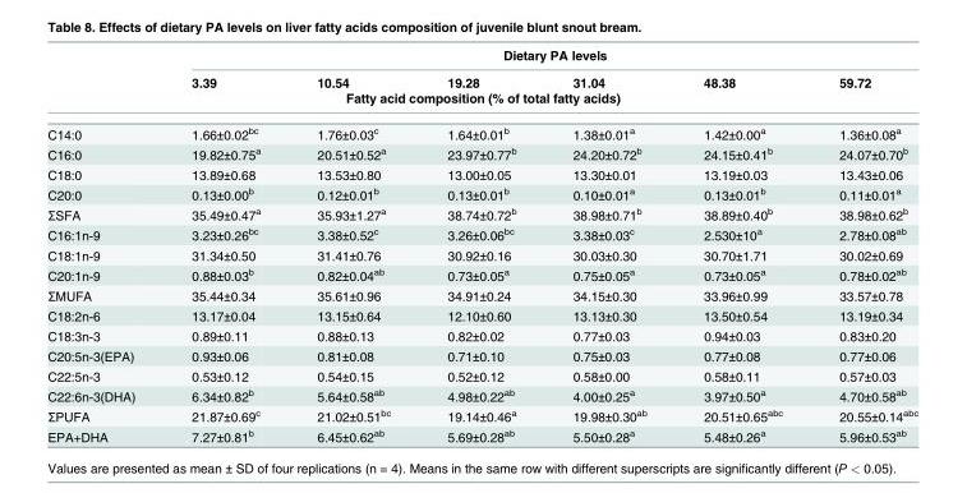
<table><thead><tr><td rowspan="2"></td><td colspan="6">Dietary PA levels</td></tr><tr><td>3.39</td><td>10.54</td><td>19.28</td><td>31.04</td><td>48.38</td><td>59.72</td></tr><tr><td colspan="7">Fatty acid composition (% of total fatty acids)</td></tr></thead><tbody><tr><td>C14:0</td><td>1.66±0.02<sup>bc</sup></td><td>1.76±0.03<sup>c</sup></td><td>1.64±0.01<sup>b</sup></td><td>1.38±0.01<sup>a</sup></td><td>1.42±0.00<sup>a</sup></td><td>1.36±0.08<sup>a</sup></td></tr><tr><td>C16:0</td><td>19.82±0.75<sup>a</sup></td><td>20.51±0.52<sup>a</sup></td><td>23.97±0.77<sup>b</sup></td><td>24.20±0.72<sup>b</sup></td><td>24.15±0.41<sup>b</sup></td><td>24.07±0.70<sup>b</sup></td></tr><tr><td>C18:0</td><td>13.89±0.68</td><td>13.53±0.80</td><td>13.00±0.05</td><td>13.30±0.01</td><td>13.19±0.03</td><td>13.43±0.06</td></tr><tr><td>C20:0</td><td>0.13±0.00<sup>b</sup></td><td>0.12±0.01<sup>b</sup></td><td>0.13±0.01<sup>b</sup></td><td>0.10±0.01<sup>a</sup></td><td>0.13±0.01<sup>b</sup></td><td>0.11±0.01<sup>a</sup></td></tr><tr><td>ΣSFA</td><td>35.49±0.47<sup>a</sup></td><td>35.93±1.27<sup>a</sup></td><td>38.74±0.72<sup>b</sup></td><td>38.98±0.71<sup>b</sup></td><td>38.89±0.40<sup>b</sup></td><td>38.98±0.62<sup>b</sup></td></tr><tr><td>C16:1n-9</td><td>3.23±0.26<sup>bc</sup></td><td>3.38±0.52<sup>c</sup></td><td>3.26±0.06<sup>bc</sup></td><td>3.38±0.03<sup>c</sup></td><td>2.530±10<sup>a</sup></td><td>2.78±0.08<sup>ab</sup></td></tr><tr><td>C18:1n-9</td><td>31.34±0.50</td><td>31.41±0.76</td><td>30.92±0.16</td><td>30.03±0.30</td><td>30.70±1.71</td><td>30.02±0.69</td></tr><tr><td>C20:1n-9</td><td>0.88±0.03<sup>b</sup></td><td>0.82±0.04<sup>ab</sup></td><td>0.73±0.05<sup>a</sup></td><td>0.75±0.05<sup>a</sup></td><td>0.73±0.05<sup>a</sup></td><td>0.78±0.02<sup>ab</sup></td></tr><tr><td>ΣMUFA</td><td>35.44±0.34</td><td>35.61±0.96</td><td>34.91±0.24</td><td>34.15±0.30</td><td>33.96±0.99</td><td>33.57±0.78</td></tr><tr><td>C18:2n-6</td><td>13.17±0.04</td><td>13.15±0.64</td><td>12.10±0.60</td><td>13.13±0.30</td><td>13.50±0.54</td><td>13.19±0.34</td></tr><tr><td>C18:3n-3</td><td>0.89±0.11</td><td>0.88±0.13</td><td>0.82±0.02</td><td>0.77±0.03</td><td>0.94±0.03</td><td>0.83±0.20</td></tr><tr><td>C20:5n-3(EPA)</td><td>0.93±0.06</td><td>0.81±0.08</td><td>0.71±0.10</td><td>0.75±0.03</td><td>0.77±0.08</td><td>0.77±0.06</td></tr><tr><td>C22:5n-3</td><td>0.53±0.12</td><td>0.54±0.15</td><td>0.52±0.12</td><td>0.58±0.00</td><td>0.58±0.11</td><td>0.57±0.03</td></tr><tr><td>C22:6n-3(DHA)</td><td>6.34±0.82<sup>b</sup></td><td>5.64±0.58<sup>ab</sup></td><td>4.98±0.22<sup>ab</sup></td><td>4.00±0.25<sup>a</sup></td><td>3.97±0.50<sup>a</sup></td><td>4.70±0.58<sup>ab</sup></td></tr><tr><td>ΣPUFA</td><td>21.87±0.69<sup>c</sup></td><td>21.02±0.51<sup>bc</sup></td><td>19.14±0.46<sup>a</sup></td><td>19.98±0.30<sup>ab</sup></td><td>20.51±0.65<sup>abc</sup></td><td>20.55±0.14<sup>abc</sup></td></tr><tr><td>EPA+DHA</td><td>7.27±0.81<sup>b</sup></td><td>6.45±0.62<sup>ab</sup></td><td>5.69±0.28<sup>ab</sup></td><td>5.50±0.28<sup>a</sup></td><td>5.48±0.26<sup>a</sup></td><td>5.96±0.53<sup>ab</sup></td></tr></tbody></table>